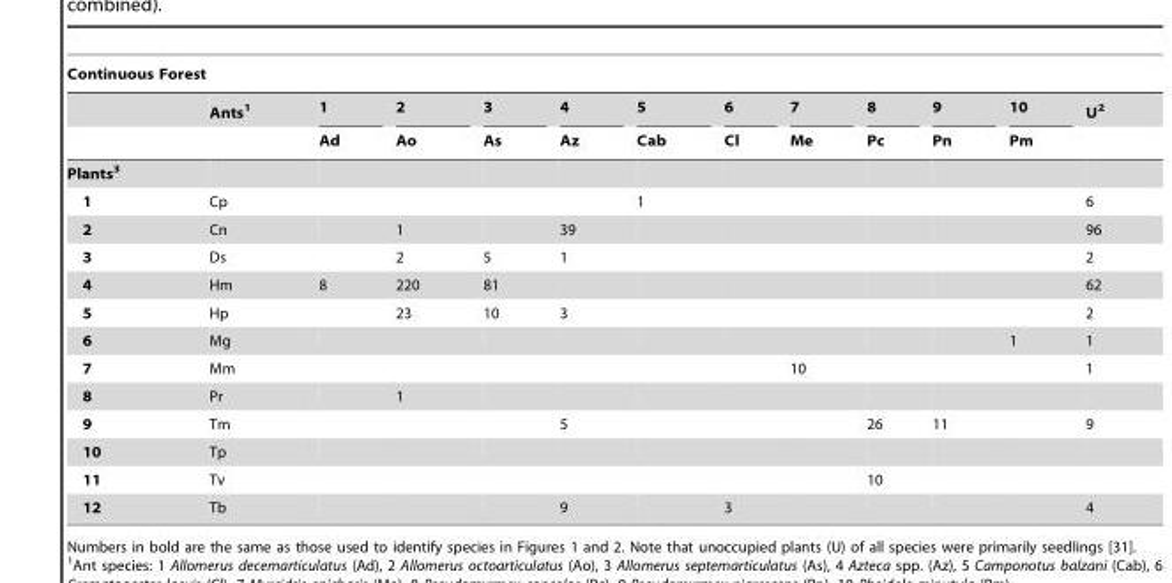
<table><thead><tr><td colspan="13">Continuous Forest</td></tr><tr><td rowspan="2"></td><td rowspan="2">Ants1</td><td rowspan="2">1 Ad</td><td rowspan="2">2 Ao</td><td rowspan="2">3 As</td><td rowspan="2">4 Az</td><td rowspan="2">5 Cab</td><td rowspan="2">6 Cl</td><td rowspan="2">7 Me</td><td rowspan="2">8 Pc</td><td rowspan="2">9 Pn</td><td rowspan="2">10 Pm</td><td rowspan="2">U2</td></tr><tr></tr></thead><tbody><tr><td colspan="13">Plants3</td></tr><tr><td>1</td><td>Cp</td><td></td><td></td><td></td><td></td><td>1</td><td></td><td></td><td></td><td></td><td></td><td>6</td></tr><tr><td>2</td><td>Cn</td><td></td><td>1</td><td></td><td>39</td><td></td><td></td><td></td><td></td><td></td><td></td><td>96</td></tr><tr><td>3</td><td>Ds</td><td></td><td>2</td><td>5</td><td>1</td><td></td><td></td><td></td><td></td><td></td><td></td><td>2</td></tr><tr><td>4</td><td>Hm</td><td>8</td><td>220</td><td>81</td><td></td><td></td><td></td><td></td><td></td><td></td><td></td><td>62</td></tr><tr><td>5</td><td>Hp</td><td></td><td>23</td><td>10</td><td>3</td><td></td><td></td><td></td><td></td><td></td><td></td><td>2</td></tr><tr><td>6</td><td>Mg</td><td></td><td></td><td></td><td></td><td></td><td></td><td></td><td></td><td></td><td>1</td><td>1</td></tr><tr><td>7</td><td>Mm</td><td></td><td></td><td></td><td></td><td></td><td></td><td>10</td><td></td><td></td><td></td><td>1</td></tr><tr><td>8</td><td>Pr</td><td></td><td>1</td><td></td><td></td><td></td><td></td><td></td><td></td><td></td><td></td><td></td></tr><tr><td>9</td><td>Tm</td><td></td><td></td><td></td><td>5</td><td></td><td></td><td></td><td>26</td><td>11</td><td></td><td>9</td></tr><tr><td>10</td><td>Tp</td><td></td><td></td><td></td><td></td><td></td><td></td><td></td><td></td><td></td><td></td><td></td></tr><tr><td>11</td><td>Tv</td><td></td><td></td><td></td><td></td><td></td><td></td><td></td><td>10</td><td></td><td></td><td></td></tr><tr><td>12</td><td>Tb</td><td></td><td></td><td></td><td>9</td><td></td><td>3</td><td></td><td></td><td></td><td></td><td>4</td></tr></tbody></table>